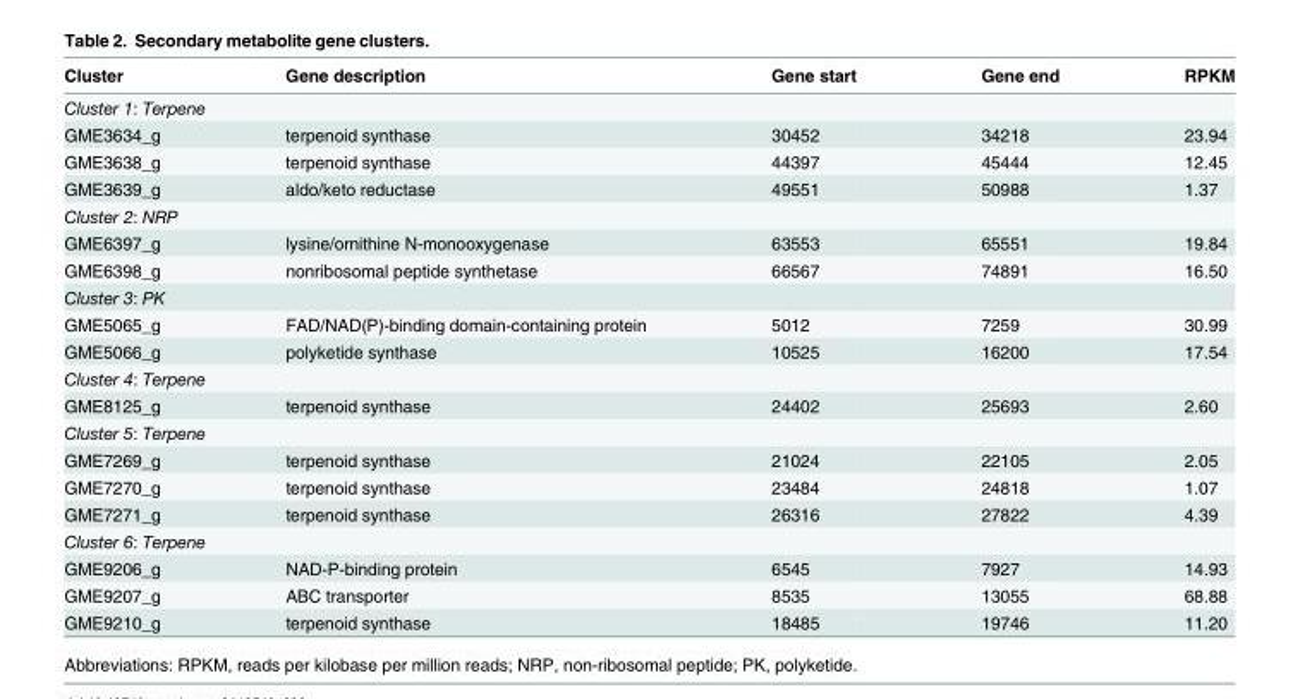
<table><thead><tr><td>Cluster</td><td>Gene description</td><td>Gene start</td><td>Gene end</td><td>RPKM</td></tr></thead><tbody><tr><td colspan="5">Cluster 1: Terpene</td></tr><tr><td>GME3634_g</td><td>terpenoid synthase</td><td>30452</td><td>34218</td><td>23.94</td></tr><tr><td>GME3638_g</td><td>terpenoid synthase</td><td>44397</td><td>45444</td><td>12.45</td></tr><tr><td>GME3639_g</td><td>aldo/keto reductase</td><td>49551</td><td>50988</td><td>1.37</td></tr><tr><td colspan="5">Cluster 2: NRP</td></tr><tr><td>GME6397_g</td><td>lysine/ornithine N-monooxygenase</td><td>63553</td><td>65551</td><td>19.84</td></tr><tr><td>GME6398_g</td><td>nonribosomal peptide synthetase</td><td>66567</td><td>74891</td><td>16.50</td></tr><tr><td colspan="5">Cluster 3: PK</td></tr><tr><td>GME5065_g</td><td>FAD/NAD(P)-binding domain-containing protein</td><td>5012</td><td>7259</td><td>30.99</td></tr><tr><td>GME5066_g</td><td>polyketide synthase</td><td>10525</td><td>16200</td><td>17.54</td></tr><tr><td colspan="5">Cluster 4: Terpene</td></tr><tr><td>GME8125_g</td><td>terpenoid synthase</td><td>24402</td><td>25693</td><td>2.60</td></tr><tr><td colspan="5">Cluster 5: Terpene</td></tr><tr><td>GME7269_g</td><td>terpenoid synthase</td><td>21024</td><td>22105</td><td>2.05</td></tr><tr><td>GME7270_g</td><td>terpenoid synthase</td><td>23484</td><td>24818</td><td>1.07</td></tr><tr><td>GME7271_g</td><td>terpenoid synthase</td><td>26316</td><td>27822</td><td>4.39</td></tr><tr><td colspan="5">Cluster 6: Terpene</td></tr><tr><td>GME9206_g</td><td>NAD-P-binding protein</td><td>6545</td><td>7927</td><td>14.93</td></tr><tr><td>GME9207_g</td><td>ABC transporter</td><td>8535</td><td>13055</td><td>68.88</td></tr><tr><td>GME9210_g</td><td>terpenoid synthase</td><td>18485</td><td>19746</td><td>11.20</td></tr></tbody></table>